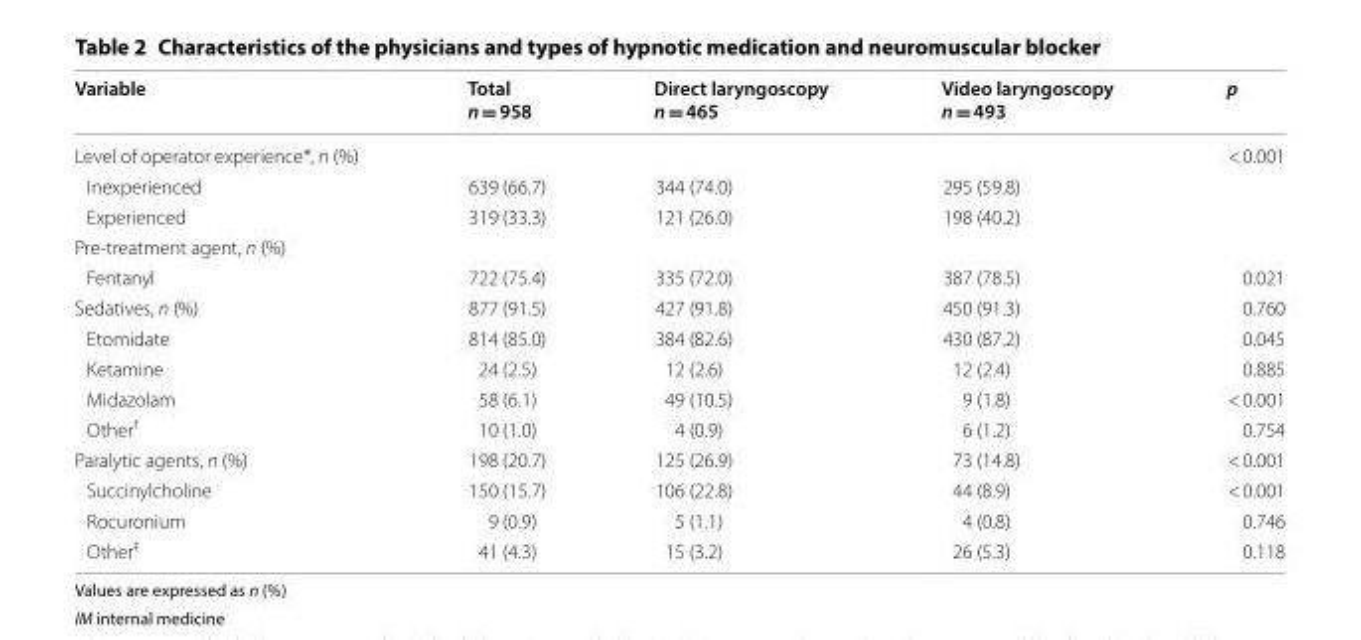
<table><thead><tr><td>Variable</td><td>Total n = 958</td><td>Direct laryngoscopy n = 465</td><td>Video laryngoscopy n = 493</td><td>p</td></tr></thead><tbody><tr><td>Level of operator experience*, n (%)</td><td></td><td></td><td></td><td>&lt; 0.001</td></tr><tr><td>Inexperienced</td><td>639 (66.7)</td><td>344 (74.0)</td><td>295 (59.8)</td><td></td></tr><tr><td>Experienced</td><td>319 (33.3)</td><td>121 (26.0)</td><td>198 (40.2)</td><td></td></tr><tr><td colspan="5">Pre‑treatment agent, n (%)</td></tr><tr><td>Fentanyl</td><td>722 (75.4)</td><td>335 (72.0)</td><td>387 (78.5)</td><td>0.021</td></tr><tr><td>Sedatives, n (%)</td><td>877 (91.5)</td><td>427 (91.8)</td><td>450 (91.3)</td><td>0.760</td></tr><tr><td>Etomidate</td><td>814 (85.0)</td><td>384 (82.6)</td><td>430 (87.2)</td><td>0.045</td></tr><tr><td>Ketamine</td><td>24 (2.5)</td><td>12 (2.6)</td><td>12 (2.4)</td><td>0.885</td></tr><tr><td>Midazolam</td><td>58 (6.1)</td><td>49 (10.5)</td><td>9 (1.8)</td><td>&lt; 0.001</td></tr><tr><td>Other<sup>†</sup></td><td>10 (1.0)</td><td>4 (0.9)</td><td>6 (1.2)</td><td>0.754</td></tr><tr><td>Paralytic agents, n (%)</td><td>198 (20.7)</td><td>125 (26.9)</td><td>73 (14.8)</td><td>&lt; 0.001</td></tr><tr><td>Succinylcholine</td><td>150 (15.7)</td><td>106 (22.8)</td><td>44 (8.9)</td><td>&lt; 0.001</td></tr><tr><td>Rocuronium</td><td>9 (0.9)</td><td>5 (1.1)</td><td>4 (0.8)</td><td>0.746</td></tr><tr><td>Other<sup>‡</sup></td><td>41 (4.3)</td><td>15 (3.2)</td><td>26 (5.3)</td><td>0.118</td></tr></tbody></table>